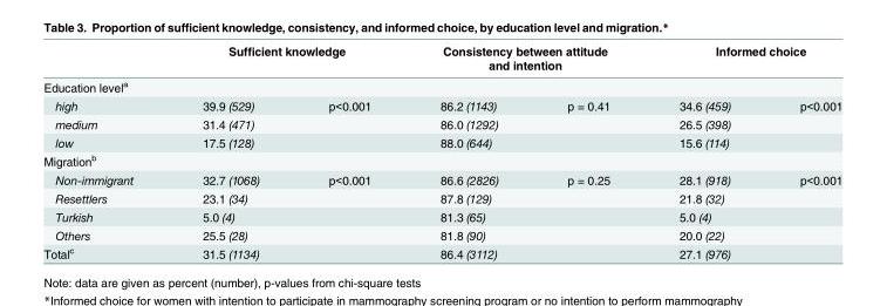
<table><thead><tr><td></td><td colspan="2">Sufficient knowledge</td><td colspan="2">Consistency between attitude and intention</td><td colspan="2">Informed choice</td></tr><tr><td colspan="7">Education level<sup>a</sup></td></tr><tr><td>high</td><td>39.9 (529)</td><td>p&lt;0.001</td><td>86.2 (1143)</td><td>p = 0.41</td><td>34.6 (459)</td><td>p&lt;0.001</td></tr></thead><tbody><tr><td>medium</td><td>31.4 (471)</td><td></td><td>86.0 (1292)</td><td></td><td>26.5 (398)</td><td></td></tr><tr><td>low</td><td>17.5 (128)</td><td></td><td>88.0 (644)</td><td></td><td>15.6 (114)</td><td></td></tr><tr><td colspan="7">Migration<sup>b</sup></td></tr><tr><td>Non-immigrant</td><td>32.7 (1068)</td><td>p&lt;0.001</td><td>86.6 (2826)</td><td>p = 0.25</td><td>28.1 (918)</td><td>p&lt;0.001</td></tr><tr><td>Resettlers</td><td>23.1 (34)</td><td></td><td>87.8 (129)</td><td></td><td>21.8 (32)</td><td></td></tr><tr><td>Turkish</td><td>5.0 (4)</td><td></td><td>81.3 (65)</td><td></td><td>5.0 (4)</td><td></td></tr><tr><td>Others</td><td>25.5 (28)</td><td></td><td>81.8 (90)</td><td></td><td>20.0 (22)</td><td></td></tr><tr><td>Total<sup>c</sup></td><td>31.5 (1134)</td><td></td><td>86.4 (3112)</td><td></td><td>27.1 (976)</td><td></td></tr></tbody></table>